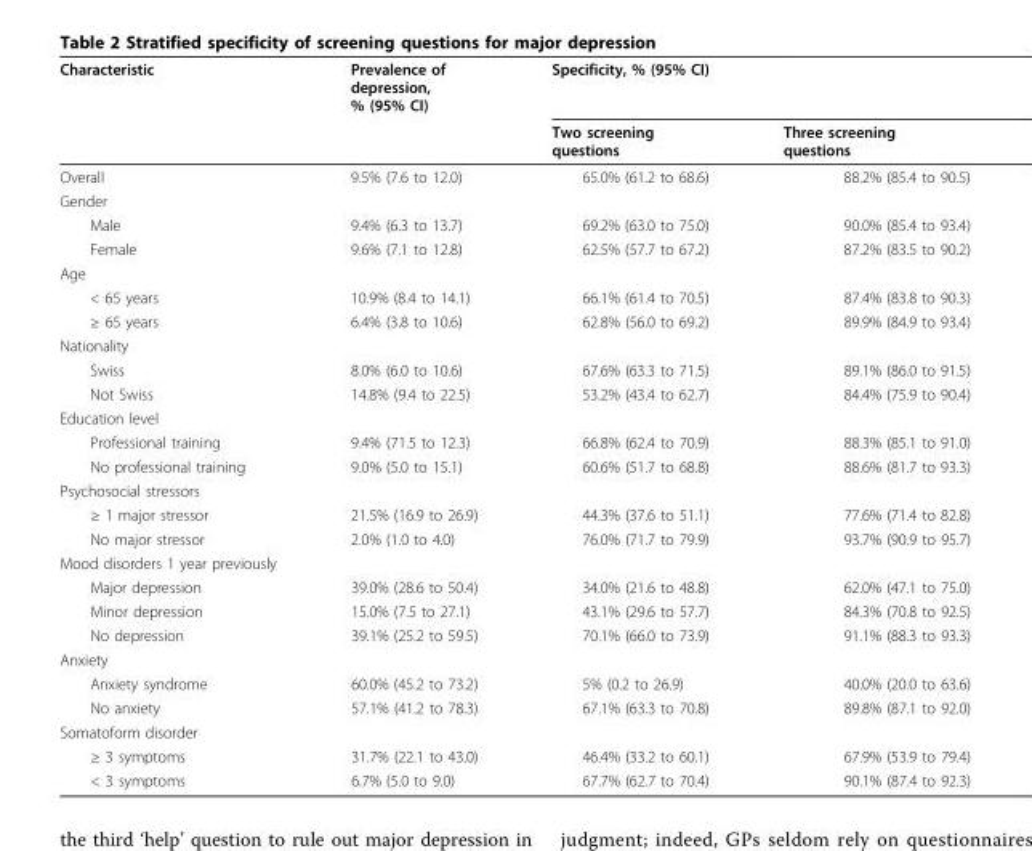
<table><thead><tr><td rowspan="2">Characteristic</td><td rowspan="2">Prevalence of depression, % (95% CI)</td><td colspan="2">Specificity, % (95% CI)</td></tr><tr><td>Two screening questions</td><td>Three screening questions</td></tr></thead><tbody><tr><td>Overall</td><td>9.5% (7.6 to 12.0)</td><td>65.0% (61.2 to 68.6)</td><td>88.2% (85.4 to 90.5)</td></tr><tr><td colspan="4">Gender</td></tr><tr><td>Male</td><td>9.4% (6.3 to 13.7)</td><td>69.2% (63.0 to 75.0)</td><td>90.0% (85.4 to 93.4)</td></tr><tr><td>Female</td><td>9.6% (7.1 to 12.8)</td><td>62.5% (57.7 to 67.2)</td><td>87.2% (83.5 to 90.2)</td></tr><tr><td colspan="4">Age</td></tr><tr><td>&lt; 65 years</td><td>10.9% (8.4 to 14.1)</td><td>66.1% (61.4 to 70.5)</td><td>87.4% (83.8 to 90.3)</td></tr><tr><td>≥ 65 years</td><td>6.4% (3.8 to 10.6)</td><td>62.8% (56.0 to 69.2)</td><td>89.9% (84.9 to 93.4)</td></tr><tr><td colspan="4">Nationality</td></tr><tr><td>Swiss</td><td>8.0% (6.0 to 10.6)</td><td>67.6% (63.3 to 71.5)</td><td>89.1% (86.0 to 91.5)</td></tr><tr><td>Not Swiss</td><td>14.8% (9.4 to 22.5)</td><td>53.2% (43.4 to 62.7)</td><td>84.4% (75.9 to 90.4)</td></tr><tr><td colspan="4">Education level</td></tr><tr><td>Professional training</td><td>9.4% (71.5 to 12.3)</td><td>66.8% (62.4 to 70.9)</td><td>88.3% (85.1 to 91.0)</td></tr><tr><td>No professional training</td><td>9.0% (5.0 to 15.1)</td><td>60.6% (51.7 to 68.8)</td><td>88.6% (81.7 to 93.3)</td></tr><tr><td colspan="4">Psychosocial stressors</td></tr><tr><td>≥ 1 major stressor</td><td>21.5% (16.9 to 26.9)</td><td>44.3% (37.6 to 51.1)</td><td>77.6% (71.4 to 82.8)</td></tr><tr><td>No major stressor</td><td>2.0% (1.0 to 4.0)</td><td>76.0% (71.7 to 79.9)</td><td>93.7% (90.9 to 95.7)</td></tr><tr><td colspan="4">Mood disorders 1 year previously</td></tr><tr><td>Major depression</td><td>39.0% (28.6 to 50.4)</td><td>34.0% (21.6 to 48.8)</td><td>62.0% (47.1 to 75.0)</td></tr><tr><td>Minor depression</td><td>15.0% (7.5 to 27.1)</td><td>43.1% (29.6 to 57.7)</td><td>84.3% (70.8 to 92.5)</td></tr><tr><td>No depression</td><td>39.1% (25.2 to 59.5)</td><td>70.1% (66.0 to 73.9)</td><td>91.1% (88.3 to 93.3)</td></tr><tr><td colspan="4">Anxiety</td></tr><tr><td>Anxiety syndrome</td><td>60.0% (45.2 to 73.2)</td><td>5% (0.2 to 26.9)</td><td>40.0% (20.0 to 63.6)</td></tr><tr><td>No anxiety</td><td>57.1% (41.2 to 78.3)</td><td>67.1% (63.3 to 70.8)</td><td>89.8% (87.1 to 92.0)</td></tr><tr><td colspan="4">Somatoform disorder</td></tr><tr><td>≥ 3 symptoms</td><td>31.7% (22.1 to 43.0)</td><td>46.4% (33.2 to 60.1)</td><td>67.9% (53.9 to 79.4)</td></tr><tr><td>&lt; 3 symptoms</td><td>6.7% (5.0 to 9.0)</td><td>67.7% (62.7 to 70.4)</td><td>90.1% (87.4 to 92.3)</td></tr></tbody></table>